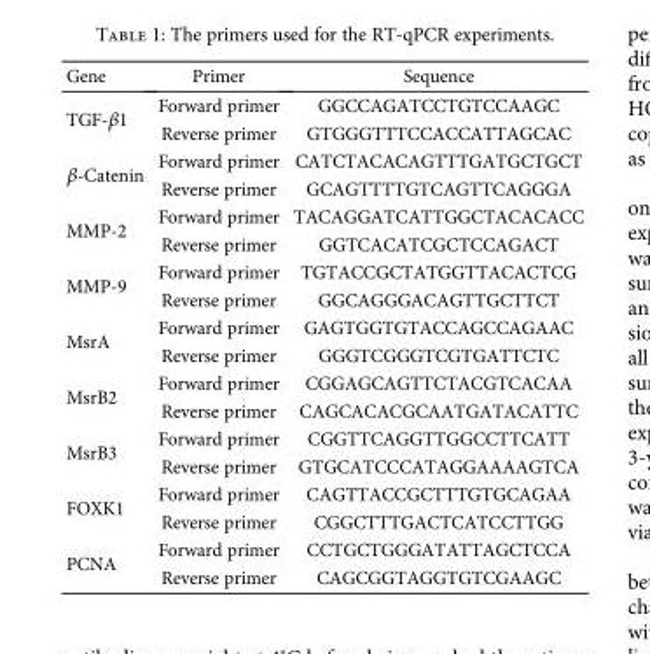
<table><thead><tr><td>Gene</td><td>Primer</td><td>Sequence</td></tr></thead><tbody><tr><td rowspan="2">TGF-β1</td><td>Forward primer</td><td>GGCCAGATCCTGTCCAAGC</td></tr><tr><td>Reverse primer</td><td>GTGGGTTTCCACCATTAGCAC</td></tr><tr><td rowspan="2">β-Catenin</td><td>Forward primer</td><td>CATCTACACAGTTTGATGCTGCT</td></tr><tr><td>Reverse primer</td><td>GCAGTTTTGTCAGTTCAGGGA</td></tr><tr><td rowspan="2">MMP-2</td><td>Forward primer</td><td>TACAGGATCATTGGCTACACACC</td></tr><tr><td>Reverse primer</td><td>GGTCACATCGCTCCAGACT</td></tr><tr><td rowspan="2">MMP-9</td><td>Forward primer</td><td>TGTACCGCTATGGTTACACTCG</td></tr><tr><td>Reverse primer</td><td>GGCAGGGACAGTTGCTTCT</td></tr><tr><td rowspan="2">MsrA</td><td>Forward primer</td><td>GAGTGGTGTACCAGCCAGAAC</td></tr><tr><td>Reverse primer</td><td>GGGTCGGGTCGTGATTCTC</td></tr><tr><td rowspan="2">MsrB2</td><td>Forward primer</td><td>CGGAGCAGTTCTACGTCACAA</td></tr><tr><td>Reverse primer</td><td>CAGCACACGCAATGATACATTC</td></tr><tr><td rowspan="2">MsrB3</td><td>Forward primer</td><td>CGGTTCAGGTTGGCCTTCATT</td></tr><tr><td>Reverse primer</td><td>GTGCATCCCATAGGAAAAGTCA</td></tr><tr><td rowspan="2">FOXK1</td><td>Forward primer</td><td>CAGTTACCGCTTTGTGCAGAA</td></tr><tr><td>Reverse primer</td><td>CGGCTTTGACTCATCCTTGG</td></tr><tr><td rowspan="2">PCNA</td><td>Forward primer</td><td>CCTGCTGGGATATTAGCTCCA</td></tr><tr><td>Reverse primer</td><td>CAGCGGTAGGTGTCGAAGC</td></tr></tbody></table>